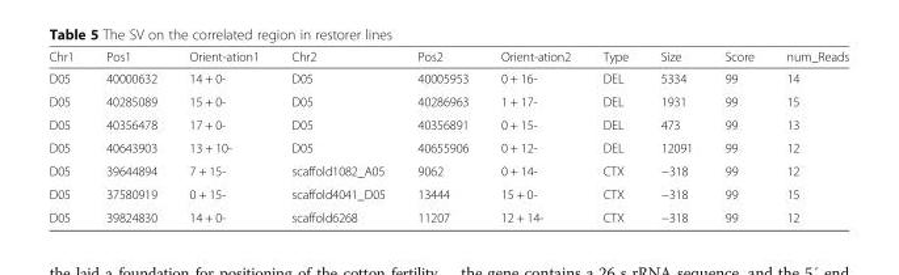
<table><thead><tr><td>Chr1</td><td>Pos1</td><td>Orient-ation1</td><td>Chr2</td><td>Pos2</td><td>Orient-ation2</td><td>Type</td><td>Size</td><td>Score</td><td>num_Reads</td></tr></thead><tbody><tr><td>D05</td><td>40000632</td><td>14 + 0-</td><td>D05</td><td>40005953</td><td>0 + 16-</td><td>DEL</td><td>5334</td><td>99</td><td>14</td></tr><tr><td>D05</td><td>40285089</td><td>15 + 0-</td><td>D05</td><td>40286963</td><td>1 + 17-</td><td>DEL</td><td>1931</td><td>99</td><td>15</td></tr><tr><td>D05</td><td>40356478</td><td>17 + 0-</td><td>D05</td><td>40356891</td><td>0 + 15-</td><td>DEL</td><td>473</td><td>99</td><td>13</td></tr><tr><td>D05</td><td>40643903</td><td>13 + 10-</td><td>D05</td><td>40655906</td><td>0 + 12-</td><td>DEL</td><td>12091</td><td>99</td><td>12</td></tr><tr><td>D05</td><td>39644894</td><td>7 + 15-</td><td>scaffold1082_A05</td><td>9062</td><td>0 + 14-</td><td>CTX</td><td>−318</td><td>99</td><td>12</td></tr><tr><td>D05</td><td>37580919</td><td>0 + 15-</td><td>scaffold4041_D05</td><td>13444</td><td>15 + 0-</td><td>CTX</td><td>−318</td><td>99</td><td>15</td></tr><tr><td>D05</td><td>39824830</td><td>14 + 0-</td><td>scaffold6268</td><td>11207</td><td>12 + 14-</td><td>CTX</td><td>−318</td><td>99</td><td>12</td></tr></tbody></table>